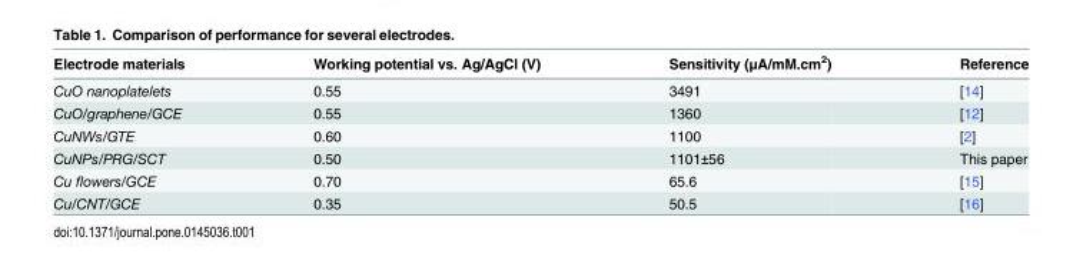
<table><thead><tr><td>Electrode materials</td><td>Working potential vs. Ag/AgCl (V)</td><td>Sensitivity (μA/mM.cm<sup>2</sup>)</td><td>Reference</td></tr></thead><tbody><tr><td>CuO nanoplatelets</td><td>0.55</td><td>3491</td><td>[14]</td></tr><tr><td>CuO/graphene/GCE</td><td>0.55</td><td>1360</td><td>[12]</td></tr><tr><td>CuNWs/GTE</td><td>0.60</td><td>1100</td><td>[2]</td></tr><tr><td>CuNPs/PRG/SCT</td><td>0.50</td><td>1101±56</td><td>This paper</td></tr><tr><td>Cu flowers/GCE</td><td>0.70</td><td>65.6</td><td>[15]</td></tr><tr><td>Cu/CNT/GCE</td><td>0.35</td><td>50.5</td><td>[16]</td></tr></tbody></table>